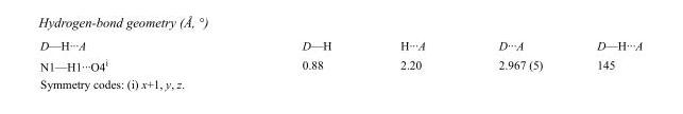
<table><tbody><tr><td>D—H···A</td><td>D—H</td><td>H···A</td><td>D···A</td><td>D—H···A</td></tr><tr><td>N1—H1···O4<sup>i</sup></td><td>0.88</td><td>2.20</td><td>2.967 (5)</td><td>145</td></tr></tbody></table>